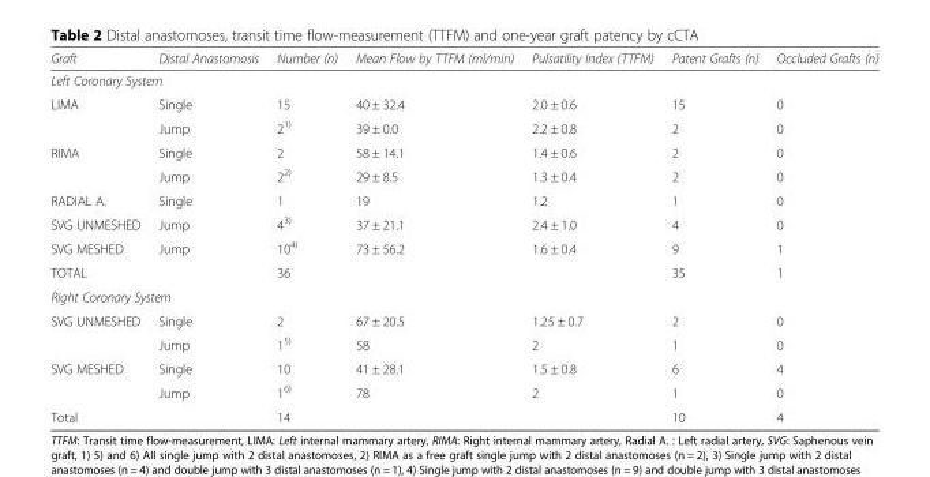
<table><thead><tr><td>Graft</td><td>Distal Anastomosis</td><td>Number (n)</td><td>Mean Flow by TTFM (ml/min)</td><td>Pulsatility Index (TTFM)</td><td>Patent Grafts (n)</td><td>Occluded Grafts (n)</td></tr></thead><tbody><tr><td colspan="7">Left Coronary System</td></tr><tr><td rowspan="2">LIMA</td><td>Single</td><td>15</td><td>40 ± 32.4</td><td>2.0 ± 0.6</td><td>15</td><td>0</td></tr><tr><td>Jump</td><td>2<sup>1)</sup></td><td>39 ± 0.0</td><td>2.2 ± 0.8</td><td>2</td><td>0</td></tr><tr><td rowspan="2">RIMA</td><td>Single</td><td>2</td><td>58 ± 14.1</td><td>1.4 ± 0.6</td><td>2</td><td>0</td></tr><tr><td>Jump</td><td>2<sup>2)</sup></td><td>29 ± 8.5</td><td>1.3 ± 0.4</td><td>2</td><td>0</td></tr><tr><td>RADIAL A.</td><td>Single</td><td>1</td><td>19</td><td>1.2</td><td>1</td><td>0</td></tr><tr><td>SVG UNMESHED</td><td>Jump</td><td>4<sup>3)</sup></td><td>37 ± 21.1</td><td>2.4 ± 1.0</td><td>4</td><td>0</td></tr><tr><td>SVG MESHED</td><td>Jump</td><td>10<sup>4)</sup></td><td>73 ± 56.2</td><td>1.6 ± 0.4</td><td>9</td><td>1</td></tr><tr><td>TOTAL</td><td></td><td>36</td><td></td><td></td><td>35</td><td>1</td></tr><tr><td colspan="7">Right Coronary System</td></tr><tr><td rowspan="2">SVG UNMESHED</td><td>Single</td><td>2</td><td>67 ± 20.5</td><td>1.25 ± 0.7</td><td>2</td><td>0</td></tr><tr><td>Jump</td><td>1<sup>5)</sup></td><td>58</td><td>2</td><td>1</td><td>0</td></tr><tr><td rowspan="2">SVG MESHED</td><td>Single</td><td>10</td><td>41 ± 28.1</td><td>1.5 ± 0.8</td><td>6</td><td>4</td></tr><tr><td>Jump</td><td>1<sup>6)</sup></td><td>78</td><td>2</td><td>1</td><td>0</td></tr><tr><td>Total</td><td></td><td>14</td><td></td><td></td><td>10</td><td>4</td></tr></tbody></table>